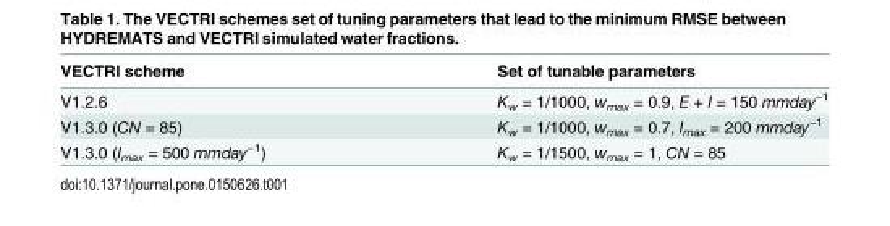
<table><thead><tr><td>VECTRI scheme</td><td>Set of tunable parameters</td></tr></thead><tbody><tr><td>V1.2.6</td><td>K<sub>w</sub> = 1/1000, w<sub>max</sub> = 0.9, E + I = 150 mmday<sup>−1</sup></td></tr><tr><td>V1.3.0 (CN = 85)</td><td>K<sub>w</sub> = 1/1000, w<sub>max</sub> = 0.7, I<sub>max</sub> = 200 mmday<sup>−1</sup></td></tr><tr><td>V1.3.0 (I<sub>max</sub> = 500 mmday<sup>−1</sup>)</td><td>K<sub>w</sub> = 1/1500, w<sub>max</sub> = 1, CN = 85</td></tr></tbody></table>